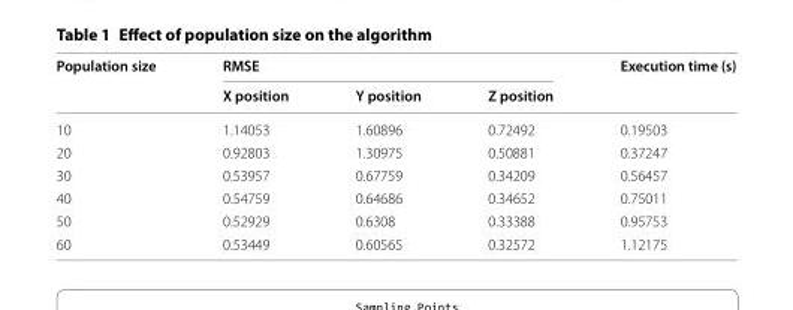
<table><thead><tr><td rowspan="2">Population size</td><td colspan="3">RMSE</td><td rowspan="2">Execution time (s)</td></tr><tr><td>X position</td><td>Y position</td><td>Z position</td></tr></thead><tbody><tr><td>10</td><td>1.14053</td><td>1.60896</td><td>0.72492</td><td>0.19503</td></tr><tr><td>20</td><td>0.92803</td><td>1.30975</td><td>0.50881</td><td>0.37247</td></tr><tr><td>30</td><td>0.53957</td><td>0.67759</td><td>0.34209</td><td>0.56457</td></tr><tr><td>40</td><td>0.54759</td><td>0.64686</td><td>0.34652</td><td>0.75011</td></tr><tr><td>50</td><td>0.52929</td><td>0.6308</td><td>0.33388</td><td>0.95753</td></tr><tr><td>60</td><td>0.53449</td><td>0.60565</td><td>0.32572</td><td>1.12175</td></tr></tbody></table>